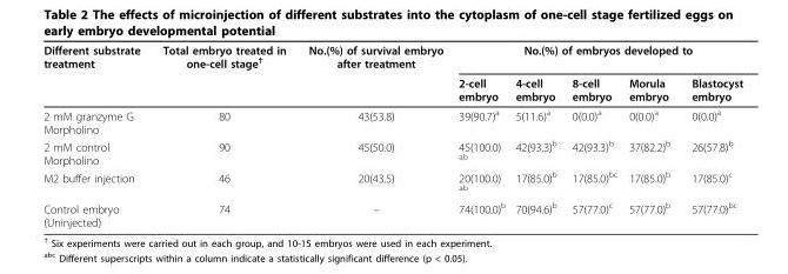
<table><thead><tr><td rowspan="2">Different substrate treatment</td><td rowspan="2">Total embryo treated in one-cell stage<sup>†</sup></td><td rowspan="2">No.(%) of survival embryo after treatment</td><td colspan="5">No.(%) of embryos developed to</td></tr><tr><td>2-cell embryo</td><td>4-cell embryo</td><td>8-cell embryo</td><td>Morula embryo</td><td>Blastocyst embryo</td></tr></thead><tbody><tr><td>2 mM granzyme G Morpholino</td><td>80</td><td>43(53.8)</td><td>39(90.7)<sup>a</sup></td><td>5(11.6)<sup>a</sup></td><td>0(0.0)<sup>a</sup></td><td>0(0.0)<sup>a</sup></td><td>0(0.0)<sup>a</sup></td></tr><tr><td>2 mM control Morpholino</td><td>90</td><td>45(50.0)</td><td>45(100.0) <sup>ab</sup></td><td>42(93.3)<sup>b</sup></td><td>42(93.3)<sup>b</sup></td><td>37(82.2)<sup>b</sup></td><td>26(57.8)<sup>b</sup></td></tr><tr><td>M2 buffer injection</td><td>46</td><td>20(43.5)</td><td>20(100.0) <sup>ab</sup></td><td>17(85.0)<sup>b</sup></td><td>17(85.0)<sup>bc</sup></td><td>17(85.0)<sup>b</sup></td><td>17(85.0)<sup>c</sup></td></tr><tr><td>Control embryo (Uninjected)</td><td>74</td><td>–</td><td>74(100.0)<sup>b</sup></td><td>70(94.6)<sup>b</sup></td><td>57(77.0)<sup>c</sup></td><td>57(77.0)<sup>b</sup></td><td>57(77.0)<sup>bc</sup></td></tr></tbody></table>